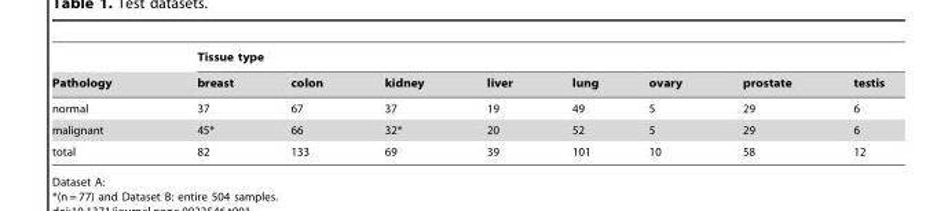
<table><thead><tr><td rowspan="2">Pathology</td><td colspan="8">Tissue type</td></tr><tr><td>breast</td><td>colon</td><td>kidney</td><td>liver</td><td>lung</td><td>ovary</td><td>prostate</td><td>testis</td></tr></thead><tbody><tr><td>normal</td><td>37</td><td>67</td><td>37</td><td>19</td><td>49</td><td>5</td><td>29</td><td>6</td></tr><tr><td>malignant</td><td>45*</td><td>66</td><td>32*</td><td>20</td><td>52</td><td>5</td><td>29</td><td>6</td></tr><tr><td>total</td><td>82</td><td>133</td><td>69</td><td>39</td><td>101</td><td>10</td><td>58</td><td>12</td></tr></tbody></table>